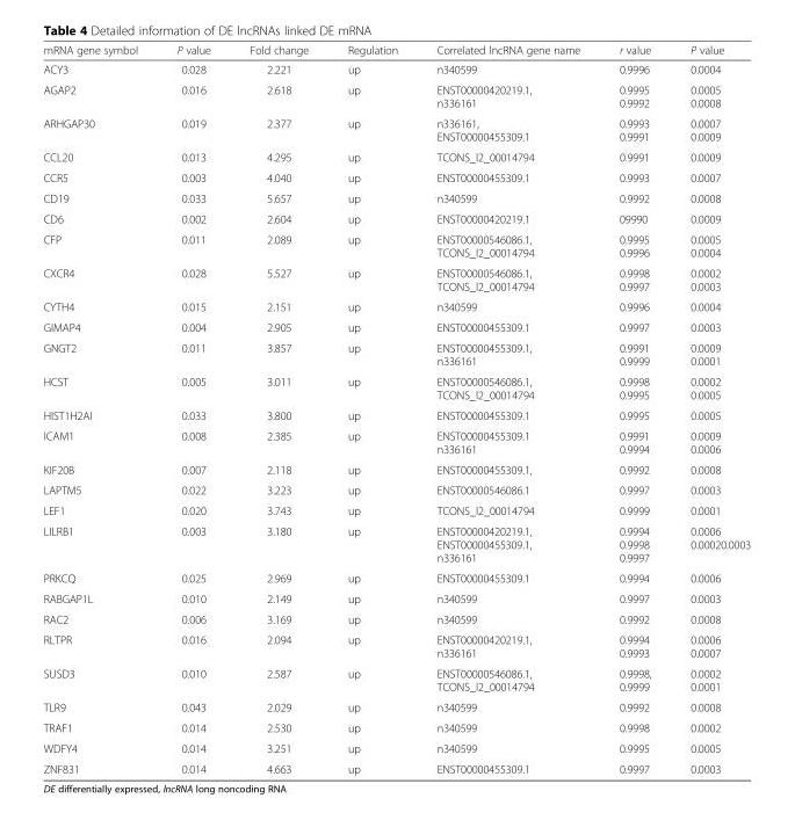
<table><thead><tr><td>mRNA gene symbol</td><td>P value</td><td>Fold change</td><td>Regulation</td><td>Correlated lncRNA gene name</td><td>r value</td><td>P value</td></tr></thead><tbody><tr><td>ACY3</td><td>0.028</td><td>2.221</td><td>up</td><td>n340599</td><td>0.9996</td><td>0.0004</td></tr><tr><td>AGAP2</td><td>0.016</td><td>2.618</td><td>up</td><td>ENST00000420219.1, n336161</td><td>0.9995 0.9992</td><td>0.0005 0.0008</td></tr><tr><td>ARHGAP30</td><td>0.019</td><td>2.377</td><td>up</td><td>n336161, ENST00000455309.1</td><td>0.9993 0.9991</td><td>0.0007 0.0009</td></tr><tr><td>CCL20</td><td>0.013</td><td>4.295</td><td>up</td><td>TCONS_l2_00014794</td><td>0.9991</td><td>0.0009</td></tr><tr><td>CCR5</td><td>0.003</td><td>4.040</td><td>up</td><td>ENST00000455309.1</td><td>0.9993</td><td>0.0007</td></tr><tr><td>CD19</td><td>0.033</td><td>5.657</td><td>up</td><td>n340599</td><td>0.9992</td><td>0.0008</td></tr><tr><td>CD6</td><td>0.002</td><td>2.604</td><td>up</td><td>ENST00000420219.1</td><td>09990</td><td>0.0009</td></tr><tr><td>CFP</td><td>0.011</td><td>2.089</td><td>up</td><td>ENST00000546086.1, TCONS_l2_00014794</td><td>0.9995 0.9996</td><td>0.0005 0.0004</td></tr><tr><td>CXCR4</td><td>0.028</td><td>5.527</td><td>up</td><td>ENST00000546086.1, TCONS_l2_00014794</td><td>0.9998 0.9997</td><td>0.0002 0.0003</td></tr><tr><td>CYTH4</td><td>0.015</td><td>2.151</td><td>up</td><td>n340599</td><td>0.9996</td><td>0.0004</td></tr><tr><td>GIMAP4</td><td>0.004</td><td>2.905</td><td>up</td><td>ENST00000455309.1</td><td>0.9997</td><td>0.0003</td></tr><tr><td>GNGT2</td><td>0.011</td><td>3.857</td><td>up</td><td>ENST00000455309.1, n336161</td><td>0.9991 0.9999</td><td>0.0009 0.0001</td></tr><tr><td>HCST</td><td>0.005</td><td>3.011</td><td>up</td><td>ENST00000546086.1, TCONS_l2_00014794</td><td>0.9998 0.9995</td><td>0.0002 0.0005</td></tr><tr><td>HIST1H2AI</td><td>0.033</td><td>3.800</td><td>up</td><td>ENST00000455309.1</td><td>0.9995</td><td>0.0005</td></tr><tr><td>ICAM1</td><td>0.008</td><td>2.385</td><td>up</td><td>ENST00000455309.1 n336161</td><td>0.9991 0.9994</td><td>0.0009 0.0006</td></tr><tr><td>KIF20B</td><td>0.007</td><td>2.118</td><td>up</td><td>ENST00000455309.1,</td><td>0.9992</td><td>0.0008</td></tr><tr><td>LAPTM5</td><td>0.022</td><td>3.223</td><td>up</td><td>ENST00000546086.1</td><td>0.9997</td><td>0.0003</td></tr><tr><td>LEF1</td><td>0.020</td><td>3.743</td><td>up</td><td>TCONS_l2_00014794</td><td>0.9999</td><td>0.0001</td></tr><tr><td>LILRB1</td><td>0.003</td><td>3.180</td><td>up</td><td>ENST00000420219.1, ENST00000455309.1, n336161</td><td>0.9994 0.9998 0.9997</td><td>0.0006 0.00020.0003</td></tr><tr><td>PRKCQ</td><td>0.025</td><td>2.969</td><td>up</td><td>ENST00000455309.1</td><td>0.9994</td><td>0.0006</td></tr><tr><td>RABGAP1L</td><td>0.010</td><td>2.149</td><td>up</td><td>n340599</td><td>0.9997</td><td>0.0003</td></tr><tr><td>RAC2</td><td>0.006</td><td>3.169</td><td>up</td><td>n340599</td><td>0.9992</td><td>0.0008</td></tr><tr><td>RLTPR</td><td>0.016</td><td>2.094</td><td>up</td><td>ENST00000420219.1, n336161</td><td>0.9994 0.9993</td><td>0.0006 0.0007</td></tr><tr><td>SUSD3</td><td>0.010</td><td>2.587</td><td>up</td><td>ENST00000546086.1, TCONS_l2_00014794</td><td>0.9998, 0.9999</td><td>0.0002 0.0001</td></tr><tr><td>TLR9</td><td>0.043</td><td>2.029</td><td>up</td><td>n340599</td><td>0.9992</td><td>0.0008</td></tr><tr><td>TRAF1</td><td>0.014</td><td>2.530</td><td>up</td><td>n340599</td><td>0.9998</td><td>0.0002</td></tr><tr><td>WDFY4</td><td>0.014</td><td>3.251</td><td>up</td><td>n340599</td><td>0.9995</td><td>0.0005</td></tr><tr><td>ZNF831</td><td>0.014</td><td>4.663</td><td>up</td><td>ENST00000455309.1</td><td>0.9997</td><td>0.0003</td></tr></tbody></table>